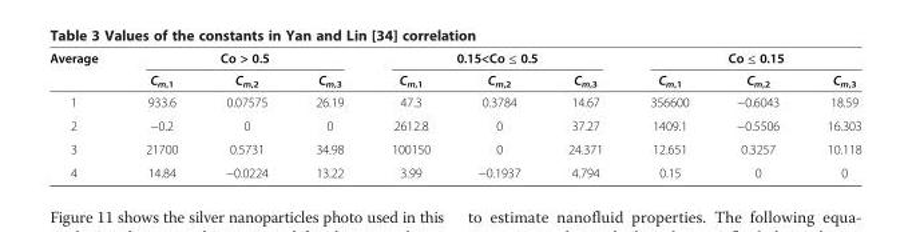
<table><thead><tr><td rowspan="2">Average</td><td colspan="3">Co &gt; 0.5</td><td colspan="3">0.15&lt;Co ≤ 0.5</td><td colspan="3">Co ≤ 0.15</td></tr><tr><td>C<sub>m,1</sub></td><td>C<sub>m,2</sub></td><td>C<sub>m,3</sub></td><td>C<sub>m,1</sub></td><td>C<sub>m,2</sub></td><td>C<sub>m,3</sub></td><td>C<sub>m,1</sub></td><td>C<sub>m,2</sub></td><td>C<sub>m,3</sub></td></tr></thead><tbody><tr><td>1</td><td>933.6</td><td>0.07575</td><td>26.19</td><td>47.3</td><td>0.3784</td><td>14.67</td><td>356600</td><td>−0.6043</td><td>18.59</td></tr><tr><td>2</td><td>−0.2</td><td>0</td><td>0</td><td>2612.8</td><td>0</td><td>37.27</td><td>1409.1</td><td>−0.5506</td><td>16.303</td></tr><tr><td>3</td><td>21700</td><td>0.5731</td><td>34.98</td><td>100150</td><td>0</td><td>24.371</td><td>12.651</td><td>0.3257</td><td>10.118</td></tr><tr><td>4</td><td>14.84</td><td>−0.0224</td><td>13.22</td><td>3.99</td><td>−0.1937</td><td>4.794</td><td>0.15</td><td>0</td><td>0</td></tr></tbody></table>